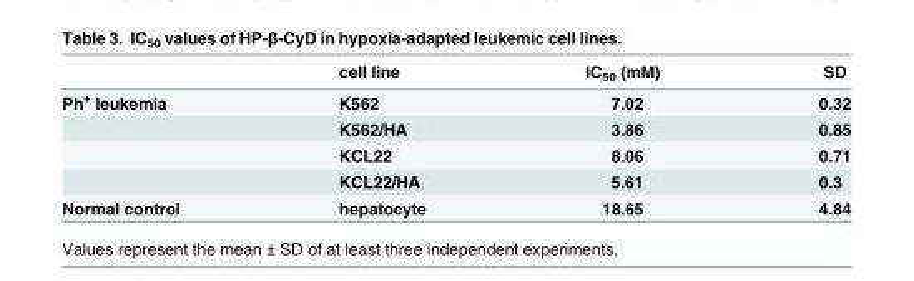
<table><thead><tr><td></td><td>cell line</td><td>IC<sub>50</sub> (mM)</td><td>SD</td></tr></thead><tbody><tr><td rowspan="4">Ph<sup>+</sup> leukemia</td><td>K562</td><td>7.02</td><td>0.32</td></tr><tr><td>K562/HA</td><td>3.86</td><td>0.85</td></tr><tr><td>KCL22</td><td>8.06</td><td>0.71</td></tr><tr><td>KCL22/HA</td><td>5.61</td><td>0.3</td></tr><tr><td>Normal control</td><td>hepatocyte</td><td>18.65</td><td>4.84</td></tr></tbody></table>